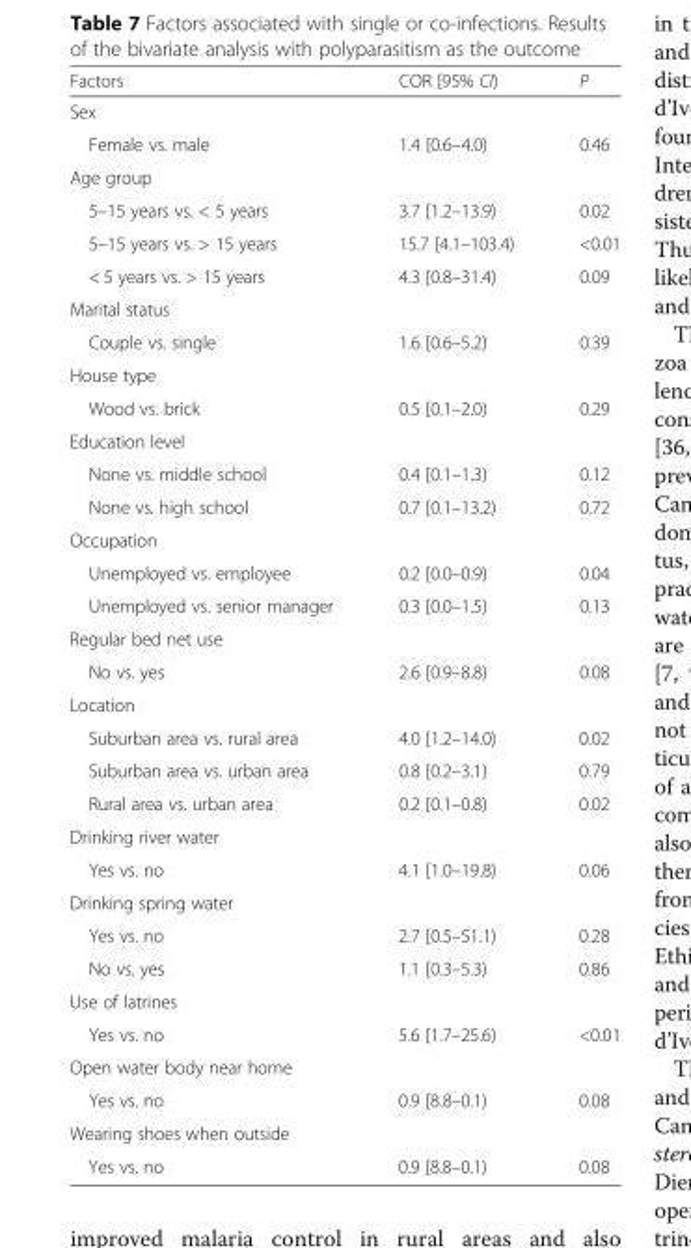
<table><thead><tr><td>Factors</td><td>COR [95% CI)</td><td>P</td></tr></thead><tbody><tr><td colspan="3">Sex</td></tr><tr><td>Female vs. male</td><td>1.4 [0.6–4.0)</td><td>0.46</td></tr><tr><td colspan="3">Age group</td></tr><tr><td>5–15 years vs. &lt; 5 years</td><td>3.7 [1.2–13.9)</td><td>0.02</td></tr><tr><td>5–15 years vs. &gt; 15 years</td><td>15.7 [4.1–103.4)</td><td>&lt;0.01</td></tr><tr><td>&lt; 5 years vs. &gt; 15 years</td><td>4.3 [0.8–31.4)</td><td>0.09</td></tr><tr><td colspan="3">Marital status</td></tr><tr><td>Couple vs. single</td><td>1.6 [0.6–5.2)</td><td>0.39</td></tr><tr><td colspan="3">House type</td></tr><tr><td>Wood vs. brick</td><td>0.5 [0.1–2.0)</td><td>0.29</td></tr><tr><td colspan="3">Education level</td></tr><tr><td>None vs. middle school</td><td>0.4 [0.1–1.3)</td><td>0.12</td></tr><tr><td>None vs. high school</td><td>0.7 [0.1–13.2)</td><td>0.72</td></tr><tr><td colspan="3">Occupation</td></tr><tr><td>Unemployed vs. employee</td><td>0.2 [0.0–0.9)</td><td>0.04</td></tr><tr><td>Unemployed vs. senior manager</td><td>0.3 [0.0–1.5)</td><td>0.13</td></tr><tr><td colspan="3">Regular bed net use</td></tr><tr><td>No vs. yes</td><td>2.6 [0.9–8.8)</td><td>0.08</td></tr><tr><td colspan="3">Location</td></tr><tr><td>Suburban area vs. rural area</td><td>4.0 [1.2–14.0)</td><td>0.02</td></tr><tr><td>Suburban area vs. urban area</td><td>0.8 [0.2–3.1)</td><td>0.79</td></tr><tr><td>Rural area vs. urban area</td><td>0.2 [0.1–0.8)</td><td>0.02</td></tr><tr><td colspan="3">Drinking river water</td></tr><tr><td>Yes vs. no</td><td>4.1 [1.0–19.8)</td><td>0.06</td></tr><tr><td colspan="3">Drinking spring water</td></tr><tr><td>Yes vs. no</td><td>2.7 [0.5–51.1)</td><td>0.28</td></tr><tr><td>No vs. yes</td><td>1.1 [0.3–5.3)</td><td>0.86</td></tr><tr><td colspan="3">Use of latrines</td></tr><tr><td>Yes vs. no</td><td>5.6 [1.7–25.6)</td><td>&lt;0.01</td></tr><tr><td colspan="3">Open water body near home</td></tr><tr><td>Yes vs. no</td><td>0.9 [8.8–0.1)</td><td>0.08</td></tr><tr><td colspan="3">Wearing shoes when outside</td></tr><tr><td>Yes vs. no</td><td>0.9 [8.8–0.1)</td><td>0.08</td></tr></tbody></table>